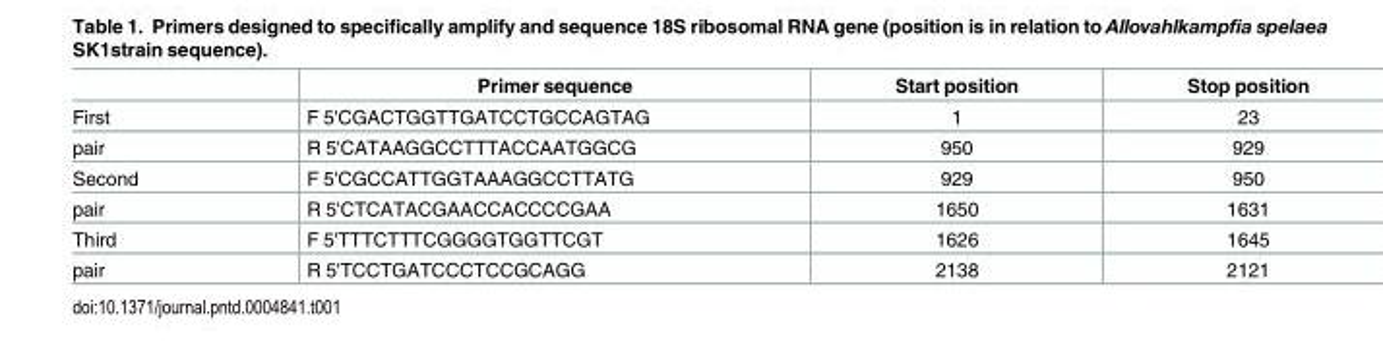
<table><thead><tr><td></td><td>Primer sequence</td><td>Start position</td><td>Stop position</td></tr></thead><tbody><tr><td>First</td><td>F 5&#x27;CGACTGGTTGATCCTGCCAGTAG</td><td>1</td><td>23</td></tr><tr><td>pair</td><td>R 5&#x27;CATAAGGCCTTTACCAATGGCG</td><td>950</td><td>929</td></tr><tr><td>Second</td><td>F 5&#x27;CGCCATTGGTAAAGGCCTTATG</td><td>929</td><td>950</td></tr><tr><td>pair</td><td>R 5&#x27;CTCATACGAACCACCCCGAA</td><td>1650</td><td>1631</td></tr><tr><td>Third</td><td>F 5&#x27;TTTCTTTCGGGGTGGTTCGT</td><td>1626</td><td>1645</td></tr><tr><td>pair</td><td>R 5&#x27;TCCTGATCCCTCCGCAGG</td><td>2138</td><td>2121</td></tr></tbody></table>